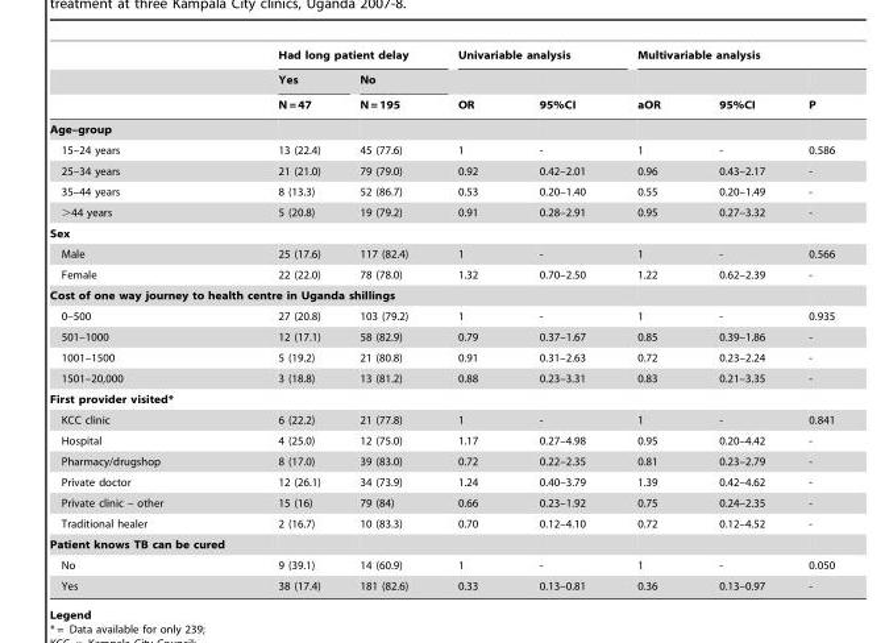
<table><thead><tr><td rowspan="3"></td><td colspan="2">Had long patient delay</td><td colspan="2">Univariable analysis</td><td colspan="3">Multivariable analysis</td></tr><tr><td rowspan="2">Yes N = 47</td><td rowspan="2">No N = 195</td><td rowspan="2">OR</td><td rowspan="2">95%CI</td><td rowspan="2">aOR</td><td rowspan="2">95%CI</td><td rowspan="2">P</td></tr><tr></tr></thead><tbody><tr><td colspan="8">Age–group</td></tr><tr><td>15–24 years</td><td>13 (22.4)</td><td>45 (77.6)</td><td>1</td><td>-</td><td>1</td><td>-</td><td>0.586</td></tr><tr><td>25–34 years</td><td>21 (21.0)</td><td>79 (79.0)</td><td>0.92</td><td>0.42–2.01</td><td>0.96</td><td>0.43–2.17</td><td>-</td></tr><tr><td>35–44 years</td><td>8 (13.3)</td><td>52 (86.7)</td><td>0.53</td><td>0.20–1.40</td><td>0.55</td><td>0.20–1.49</td><td>-</td></tr><tr><td>&gt;44 years</td><td>5 (20.8)</td><td>19 (79.2)</td><td>0.91</td><td>0.28–2.91</td><td>0.95</td><td>0.27–3.32</td><td>-</td></tr><tr><td colspan="8">Sex</td></tr><tr><td>Male</td><td>25 (17.6)</td><td>117 (82.4)</td><td>1</td><td>-</td><td>1</td><td>-</td><td>0.566</td></tr><tr><td>Female</td><td>22 (22.0)</td><td>78 (78.0)</td><td>1.32</td><td>0.70–2.50</td><td>1.22</td><td>0.62–2.39</td><td>-</td></tr><tr><td colspan="8">Cost of one way journey to health centre in Uganda shillings</td></tr><tr><td>0–500</td><td>27 (20.8)</td><td>103 (79.2)</td><td>1</td><td>-</td><td>1</td><td>-</td><td>0.935</td></tr><tr><td>501–1000</td><td>12 (17.1)</td><td>58 (82.9)</td><td>0.79</td><td>0.37–1.67</td><td>0.85</td><td>0.39–1.86</td><td>-</td></tr><tr><td>1001–1500</td><td>5 (19.2)</td><td>21 (80.8)</td><td>0.91</td><td>0.31–2.63</td><td>0.72</td><td>0.23–2.24</td><td>-</td></tr><tr><td>1501–20,000</td><td>3 (18.8)</td><td>13 (81.2)</td><td>0.88</td><td>0.23–3.31</td><td>0.83</td><td>0.21–3.35</td><td>-</td></tr><tr><td colspan="8">First provider visited*</td></tr><tr><td>KCC clinic</td><td>6 (22.2)</td><td>21 (77.8)</td><td>1</td><td>-</td><td>1</td><td>-</td><td>0.841</td></tr><tr><td>Hospital</td><td>4 (25.0)</td><td>12 (75.0)</td><td>1.17</td><td>0.27–4.98</td><td>0.95</td><td>0.20–4.42</td><td>-</td></tr><tr><td>Pharmacy/drugshop</td><td>8 (17.0)</td><td>39 (83.0)</td><td>0.72</td><td>0.22–2.35</td><td>0.81</td><td>0.23–2.79</td><td>-</td></tr><tr><td>Private doctor</td><td>12 (26.1)</td><td>34 (73.9)</td><td>1.24</td><td>0.40–3.79</td><td>1.39</td><td>0.42–4.62</td><td>-</td></tr><tr><td>Private clinic – other</td><td>15 (16)</td><td>79 (84)</td><td>0.66</td><td>0.23–1.92</td><td>0.75</td><td>0.24–2.35</td><td>-</td></tr><tr><td>Traditional healer</td><td>2 (16.7)</td><td>10 (83.3)</td><td>0.70</td><td>0.12–4.10</td><td>0.72</td><td>0.12–4.52</td><td>-</td></tr><tr><td colspan="8">Patient knows TB can be cured</td></tr><tr><td>No</td><td>9 (39.1)</td><td>14 (60.9)</td><td>1</td><td>-</td><td>1</td><td>-</td><td>0.050</td></tr><tr><td>Yes</td><td>38 (17.4)</td><td>181 (82.6)</td><td>0.33</td><td>0.13–0.81</td><td>0.36</td><td>0.13–0.97</td><td>-</td></tr></tbody></table>